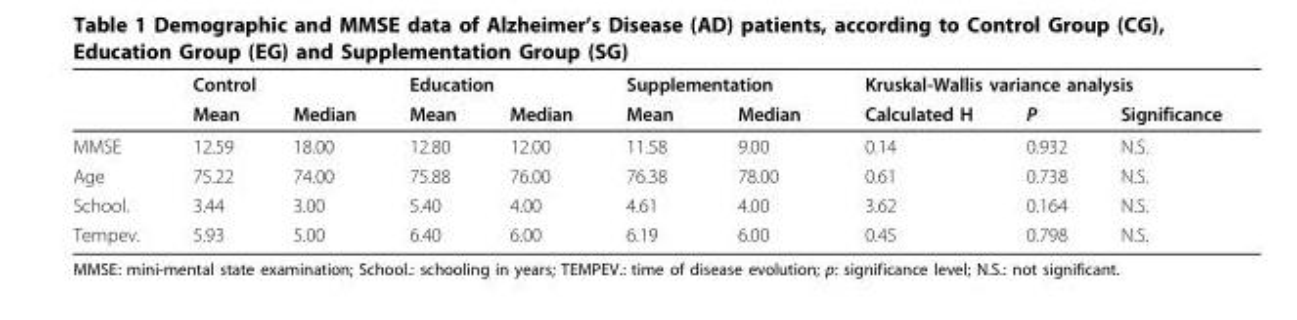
<table><thead><tr><td rowspan="2"></td><td colspan="2">Control</td><td colspan="2">Education</td><td colspan="2">Supplementation</td><td colspan="3">Kruskal-Wallis variance analysis</td></tr><tr><td>Mean</td><td>Median</td><td>Mean</td><td>Median</td><td>Mean</td><td>Median</td><td>Calculated H</td><td>P</td><td>Significance</td></tr></thead><tbody><tr><td>MMSE</td><td>12.59</td><td>18.00</td><td>12.80</td><td>12.00</td><td>11.58</td><td>9.00</td><td>0.14</td><td>0.932</td><td>N.S.</td></tr><tr><td>Age</td><td>75.22</td><td>74.00</td><td>75.88</td><td>76.00</td><td>76.38</td><td>78.00</td><td>0.61</td><td>0.738</td><td>N.S.</td></tr><tr><td>School.</td><td>3.44</td><td>3.00</td><td>5.40</td><td>4.00</td><td>4.61</td><td>4.00</td><td>3.62</td><td>0.164</td><td>N.S.</td></tr><tr><td>Tempev.</td><td>5.93</td><td>5.00</td><td>6.40</td><td>6.00</td><td>6.19</td><td>6.00</td><td>0.45</td><td>0.798</td><td>N.S.</td></tr></tbody></table>